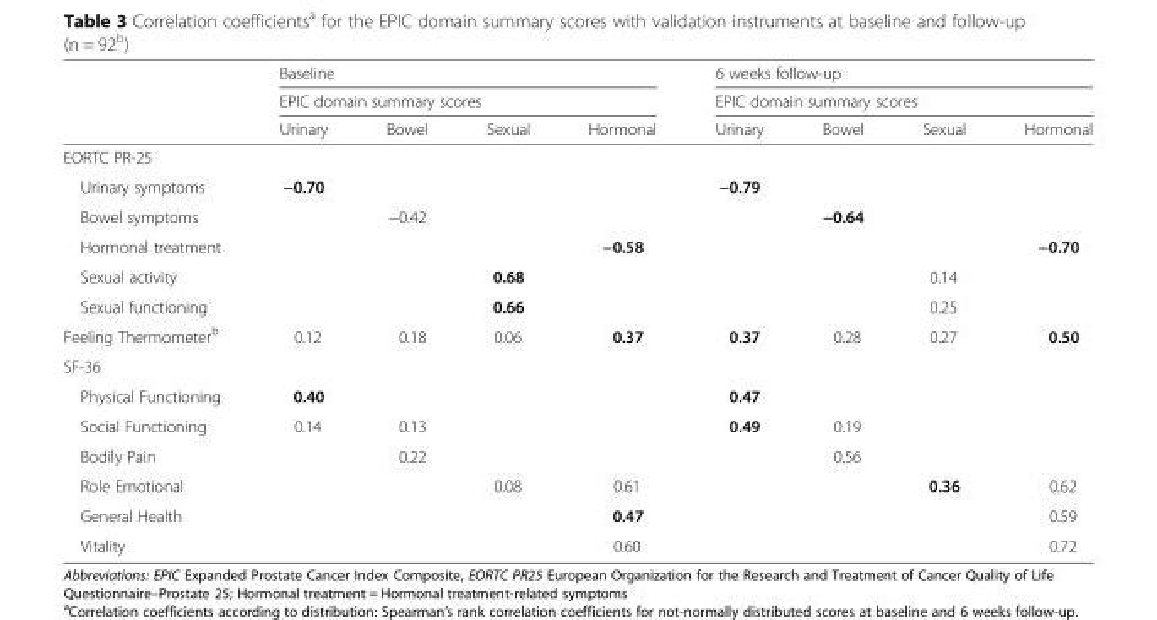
<table><thead><tr><td rowspan="3"></td><td rowspan="2" colspan="4">Baseline EPIC domain summary scores</td><td rowspan="2" colspan="4">6 weeks follow-up EPIC domain summary scores</td></tr><tr></tr><tr><td>Urinary</td><td>Bowel</td><td>Sexual</td><td>Hormonal</td><td>Urinary</td><td>Bowel</td><td>Sexual</td><td>Hormonal</td></tr></thead><tbody><tr><td colspan="9">EORTC PR-25</td></tr><tr><td>Urinary symptoms</td><td>−0.70</td><td></td><td></td><td></td><td>−0.79</td><td></td><td></td><td></td></tr><tr><td>Bowel symptoms</td><td></td><td>−0.42</td><td></td><td></td><td></td><td>−0.64</td><td></td><td></td></tr><tr><td>Hormonal treatment</td><td></td><td></td><td></td><td>−0.58</td><td></td><td></td><td></td><td>−0.70</td></tr><tr><td>Sexual activity</td><td></td><td></td><td>0.68</td><td></td><td></td><td></td><td>0.14</td><td></td></tr><tr><td>Sexual functioning</td><td></td><td></td><td>0.66</td><td></td><td></td><td></td><td>0.25</td><td></td></tr><tr><td>Feeling Thermometer<sup>b</sup></td><td>0.12</td><td>0.18</td><td>0.06</td><td>0.37</td><td>0.37</td><td>0.28</td><td>0.27</td><td>0.50</td></tr><tr><td colspan="9">SF-36</td></tr><tr><td>Physical Functioning</td><td>0.40</td><td></td><td></td><td></td><td>0.47</td><td></td><td></td><td></td></tr><tr><td>Social Functioning</td><td>0.14</td><td>0.13</td><td></td><td></td><td>0.49</td><td>0.19</td><td></td><td></td></tr><tr><td>Bodily Pain</td><td></td><td>0.22</td><td></td><td></td><td></td><td>0.56</td><td></td><td></td></tr><tr><td>Role Emotional</td><td></td><td></td><td>0.08</td><td>0.61</td><td></td><td></td><td>0.36</td><td>0.62</td></tr><tr><td>General Health</td><td></td><td></td><td></td><td>0.47</td><td></td><td></td><td></td><td>0.59</td></tr><tr><td>Vitality</td><td></td><td></td><td></td><td>0.60</td><td></td><td></td><td></td><td>0.72</td></tr></tbody></table>